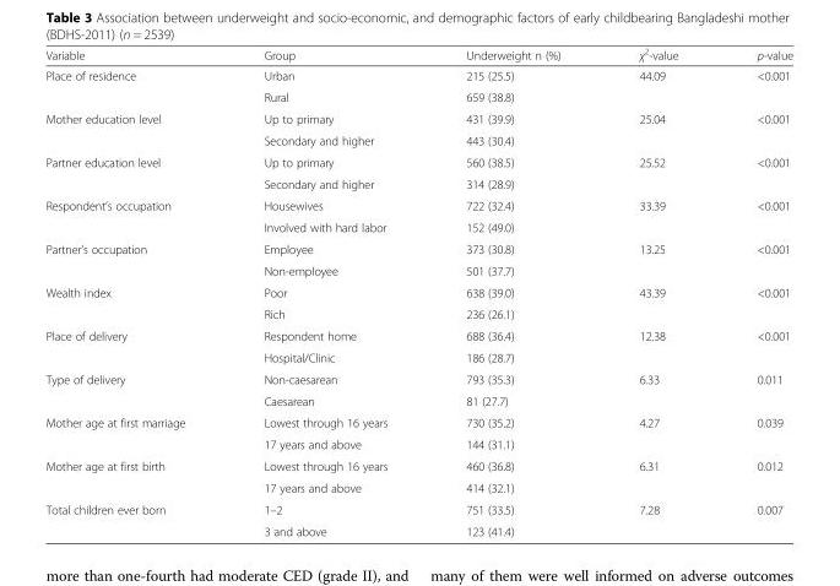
<table><thead><tr><td>Variable</td><td>Group</td><td>Underweight n (%)</td><td>χ<sup>2</sup>-value</td><td>p-value</td></tr></thead><tbody><tr><td rowspan="2">Place of residence</td><td>Urban</td><td>215 (25.5)</td><td rowspan="2">44.09</td><td rowspan="2">&lt;0.001</td></tr><tr><td>Rural</td><td>659 (38.8)</td></tr><tr><td rowspan="2">Mother education level</td><td>Up to primary</td><td>431 (39.9)</td><td rowspan="2">25.04</td><td rowspan="2">&lt;0.001</td></tr><tr><td>Secondary and higher</td><td>443 (30.4)</td></tr><tr><td rowspan="2">Partner education level</td><td>Up to primary</td><td>560 (38.5)</td><td rowspan="2">25.52</td><td rowspan="2">&lt;0.001</td></tr><tr><td>Secondary and higher</td><td>314 (28.9)</td></tr><tr><td rowspan="2">Respondent’s occupation</td><td>Housewives</td><td>722 (32.4)</td><td rowspan="2">33.39</td><td rowspan="2">&lt;0.001</td></tr><tr><td>Involved with hard labor</td><td>152 (49.0)</td></tr><tr><td rowspan="2">Partner’s occupation</td><td>Employee</td><td>373 (30.8)</td><td rowspan="2">13.25</td><td rowspan="2">&lt;0.001</td></tr><tr><td>Non-employee</td><td>501 (37.7)</td></tr><tr><td rowspan="2">Wealth index</td><td>Poor</td><td>638 (39.0)</td><td rowspan="2">43.39</td><td rowspan="2">&lt;0.001</td></tr><tr><td>Rich</td><td>236 (26.1)</td></tr><tr><td rowspan="2">Place of delivery</td><td>Respondent home</td><td>688 (36.4)</td><td rowspan="2">12.38</td><td rowspan="2">&lt;0.001</td></tr><tr><td>Hospital/Clinic</td><td>186 (28.7)</td></tr><tr><td rowspan="2">Type of delivery</td><td>Non-caesarean</td><td>793 (35.3)</td><td rowspan="2">6.33</td><td rowspan="2">0.011</td></tr><tr><td>Caesarean</td><td>81 (27.7)</td></tr><tr><td rowspan="2">Mother age at first marriage</td><td>Lowest through 16 years</td><td>730 (35.2)</td><td rowspan="2">4.27</td><td rowspan="2">0.039</td></tr><tr><td>17 years and above</td><td>144 (31.1)</td></tr><tr><td rowspan="2">Mother age at first birth</td><td>Lowest through 16 years</td><td>460 (36.8)</td><td rowspan="2">6.31</td><td rowspan="2">0.012</td></tr><tr><td>17 years and above</td><td>414 (32.1)</td></tr><tr><td rowspan="2">Total children ever born</td><td>1–2</td><td>751 (33.5)</td><td rowspan="2">7.28</td><td rowspan="2">0.007</td></tr><tr><td>3 and above</td><td>123 (41.4)</td></tr></tbody></table>